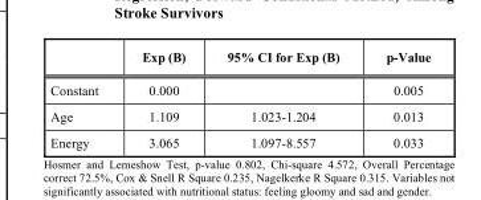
<table><thead><tr><td></td><td>Exp (B)</td><td>95% CI for Exp (B)</td><td>p-Value</td></tr></thead><tbody><tr><td>Constant</td><td>0.000</td><td></td><td>0.005</td></tr><tr><td>Age</td><td>1.109</td><td>1.023-1.204</td><td>0.013</td></tr><tr><td>Energy</td><td>3.065</td><td>1.097-8.557</td><td>0.033</td></tr></tbody></table>